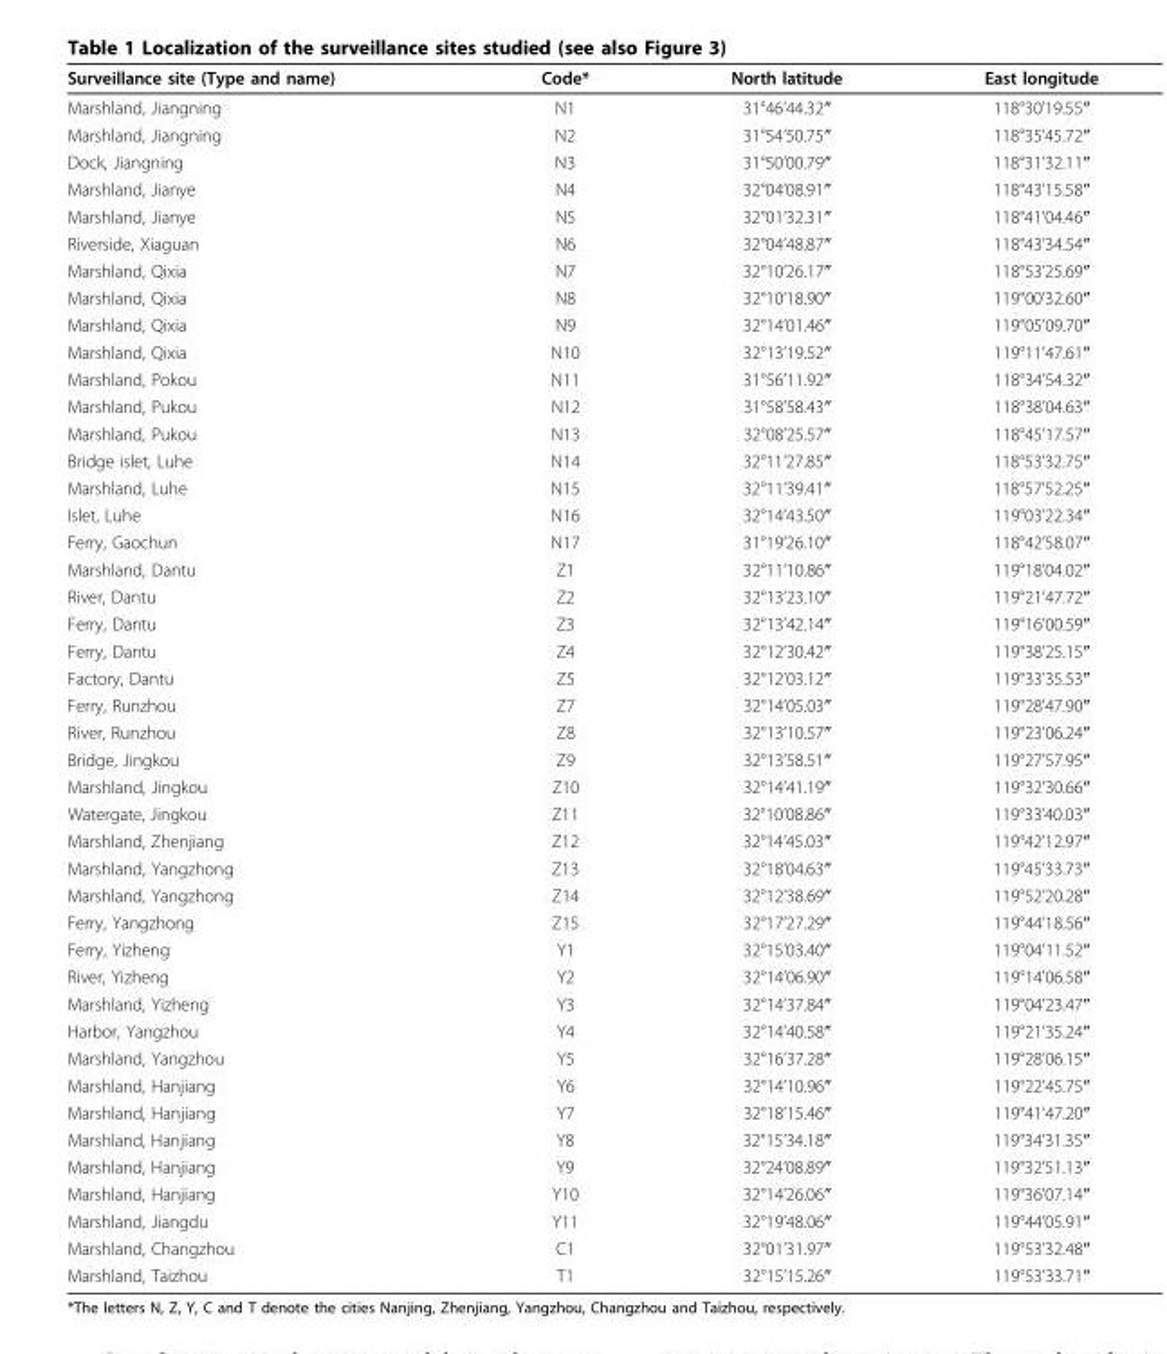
<table><thead><tr><td>Surveillance site (Type and name)</td><td>Code*</td><td>North latitude</td><td>East longitude</td></tr></thead><tbody><tr><td>Marshland, Jiangning</td><td>N1</td><td>31°46’44.32″</td><td>118°30’19.55″</td></tr><tr><td>Marshland, Jiangning</td><td>N2</td><td>31°54’50.75″</td><td>118°35’45.72″</td></tr><tr><td>Dock, Jiangning</td><td>N3</td><td>31°50’00.79″</td><td>118°31’32.11″</td></tr><tr><td>Marshland, Jianye</td><td>N4</td><td>32°04’08.91″</td><td>118°43’15.58″</td></tr><tr><td>Marshland, Jianye</td><td>N5</td><td>32°01’32.31″</td><td>118°41’04.46″</td></tr><tr><td>Riverside, Xiaguan</td><td>N6</td><td>32°04’48.87″</td><td>118°43’34.54″</td></tr><tr><td>Marshland, Qixia</td><td>N7</td><td>32°10’26.17″</td><td>118°53’25.69″</td></tr><tr><td>Marshland, Qixia</td><td>N8</td><td>32°10’18.90″</td><td>119°00’32.60″</td></tr><tr><td>Marshland, Qixia</td><td>N9</td><td>32°14’01.46″</td><td>119°05’09.70″</td></tr><tr><td>Marshland, Qixia</td><td>N10</td><td>32°13’19.52″</td><td>119°11’47.61″</td></tr><tr><td>Marshland, Pokou</td><td>N11</td><td>31°56’11.92″</td><td>118°34’54.32″</td></tr><tr><td>Marshland, Pukou</td><td>N12</td><td>31°58’58.43″</td><td>118°38’04.63″</td></tr><tr><td>Marshland, Pukou</td><td>N13</td><td>32°08’25.57″</td><td>118°45’17.57″</td></tr><tr><td>Bridge islet, Luhe</td><td>N14</td><td>32°11’27.85″</td><td>118°53’32.75″</td></tr><tr><td>Marshland, Luhe</td><td>N15</td><td>32°11’39.41″</td><td>118°57’52.25″</td></tr><tr><td>Islet, Luhe</td><td>N16</td><td>32°14’43.50″</td><td>119°03’22.34″</td></tr><tr><td>Ferry, Gaochun</td><td>N17</td><td>31°19’26.10″</td><td>118°42’58.07″</td></tr><tr><td>Marshland, Dantu</td><td>Z1</td><td>32°11’10.86″</td><td>119°18’04.02″</td></tr><tr><td>River, Dantu</td><td>Z2</td><td>32°13’23.10″</td><td>119°21’47.72″</td></tr><tr><td>Ferry, Dantu</td><td>Z3</td><td>32°13’42.14″</td><td>119°16’00.59″</td></tr><tr><td>Ferry, Dantu</td><td>Z4</td><td>32°12’30.42″</td><td>119°38’25.15″</td></tr><tr><td>Factory, Dantu</td><td>Z5</td><td>32°12’03.12″</td><td>119°33’35.53″</td></tr><tr><td>Ferry, Runzhou</td><td>Z7</td><td>32°14’05.03″</td><td>119°28’47.90″</td></tr><tr><td>River, Runzhou</td><td>Z8</td><td>32°13’10.57″</td><td>119°23’06.24″</td></tr><tr><td>Bridge, Jingkou</td><td>Z9</td><td>32°13’58.51″</td><td>119°27’57.95″</td></tr><tr><td>Marshland, Jingkou</td><td>Z10</td><td>32°14’41.19″</td><td>119°32’30.66″</td></tr><tr><td>Watergate, Jingkou</td><td>Z11</td><td>32°10’08.86″</td><td>119°33’40.03″</td></tr><tr><td>Marshland, Zhenjiang</td><td>Z12</td><td>32°14’45.03″</td><td>119°42’12.97″</td></tr><tr><td>Marshland, Yangzhong</td><td>Z13</td><td>32°18’04.63″</td><td>119°45’33.73″</td></tr><tr><td>Marshland, Yangzhong</td><td>Z14</td><td>32°12’38.69″</td><td>119°52’20.28″</td></tr><tr><td>Ferry, Yangzhong</td><td>Z15</td><td>32°17’27.29″</td><td>119°44’18.56″</td></tr><tr><td>Ferry, Yizheng</td><td>Y1</td><td>32°15’03.40″</td><td>119°04’11.52″</td></tr><tr><td>River, Yizheng</td><td>Y2</td><td>32°14’06.90″</td><td>119°14’06.58″</td></tr><tr><td>Marshland, Yizheng</td><td>Y3</td><td>32°14’37.84″</td><td>119°04’23.47″</td></tr><tr><td>Harbor, Yangzhou</td><td>Y4</td><td>32°14’40.58″</td><td>119°21’35.24″</td></tr><tr><td>Marshland, Yangzhou</td><td>Y5</td><td>32°16’37.28″</td><td>119°28’06.15″</td></tr><tr><td>Marshland, Hanjiang</td><td>Y6</td><td>32°14’10.96″</td><td>119°22’45.75″</td></tr><tr><td>Marshland, Hanjiang</td><td>Y7</td><td>32°18’15.46″</td><td>119°41’47.20″</td></tr><tr><td>Marshland, Hanjiang</td><td>Y8</td><td>32°15’34.18″</td><td>119°34’31.35″</td></tr><tr><td>Marshland, Hanjiang</td><td>Y9</td><td>32°24’08.89″</td><td>119°32’51.13″</td></tr><tr><td>Marshland, Hanjiang</td><td>Y10</td><td>32°14’26.06″</td><td>119°36’07.14″</td></tr><tr><td>Marshland, Jiangdu</td><td>Y11</td><td>32°19’48.06″</td><td>119°44’05.91″</td></tr><tr><td>Marshland, Changzhou</td><td>C1</td><td>32°01’31.97″</td><td>119°53’32.48″</td></tr><tr><td>Marshland, Taizhou</td><td>T1</td><td>32°15’15.26″</td><td>119°53’33.71″</td></tr></tbody></table>